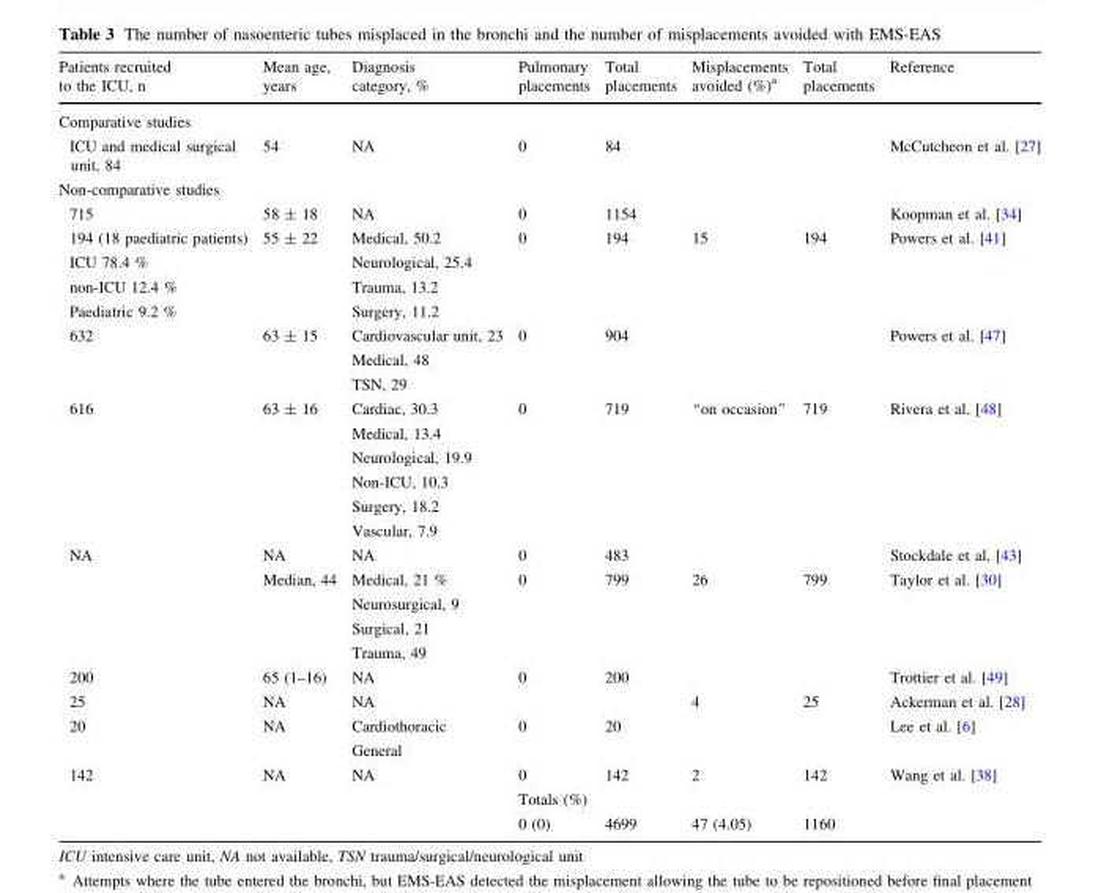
<table><thead><tr><td>Patients recruited to the ICU, n</td><td>Mean age, years</td><td>Diagnosis category, %</td><td>Pulmonary placements</td><td>Total placements</td><td>Misplacements avoided (%)<sup>a</sup></td><td>Total placements</td><td>Reference</td></tr></thead><tbody><tr><td colspan="8">Comparative studies</td></tr><tr><td>ICU and medical surgical unit, 84</td><td>54</td><td>NA</td><td>0</td><td>84</td><td></td><td></td><td>McCutcheon et al. [27]</td></tr><tr><td colspan="8">Non-comparative studies</td></tr><tr><td>715</td><td>58 ± 18</td><td>NA</td><td>0</td><td>1154</td><td></td><td></td><td>Koopman et al. [34]</td></tr><tr><td>194 (18 paediatric patients) ICU 78.4 % non-ICU 12.4 % Paediatric 9.2 %</td><td>55 ± 22</td><td>Medical, 50.2 Neurological, 25.4 Trauma, 13.2 Surgery, 11.2</td><td>0</td><td>194</td><td>15</td><td>194</td><td>Powers et al. [41]</td></tr><tr><td>632</td><td>63 ± 15</td><td>Cardiovascular unit, 23 Medical, 48 TSN, 29</td><td>0</td><td>904</td><td></td><td></td><td>Powers et al. [47]</td></tr><tr><td>616</td><td>63 ± 16</td><td>Cardiac, 30.3 Medical, 13.4 Neurological, 19.9 Non-ICU, 10.3 Surgery, 18.2 Vascular, 7.9</td><td>0</td><td>719</td><td>‘‘on occasion’’</td><td>719</td><td>Rivera et al. [48]</td></tr><tr><td rowspan="2">NA</td><td>NA</td><td>NA</td><td>0</td><td>483</td><td></td><td></td><td>Stockdale et al. [43]</td></tr><tr><td>Median, 44</td><td>Medical, 21 % Neurosurgical, 9 Surgical, 21 Trauma, 49</td><td>0</td><td>799</td><td>26</td><td>799</td><td>Taylor et al. [30]</td></tr><tr><td>200</td><td>65 (1–16)</td><td>NA</td><td>0</td><td>200</td><td></td><td></td><td>Trottier et al. [49]</td></tr><tr><td>25</td><td>NA</td><td>NA</td><td></td><td></td><td>4</td><td>25</td><td>Ackerman et al. [28]</td></tr><tr><td>20</td><td>NA</td><td>Cardiothoracic General</td><td>0</td><td>20</td><td></td><td></td><td>Lee et al. [6]</td></tr><tr><td rowspan="3">142</td><td>NA</td><td>NA</td><td>0</td><td>142</td><td>2</td><td>142</td><td>Wang et al. [38]</td></tr><tr><td></td><td></td><td colspan="5">Totals (%)</td></tr><tr><td></td><td></td><td>0 (0)</td><td>4699</td><td>47 (4.05)</td><td>1160</td><td></td></tr></tbody></table>